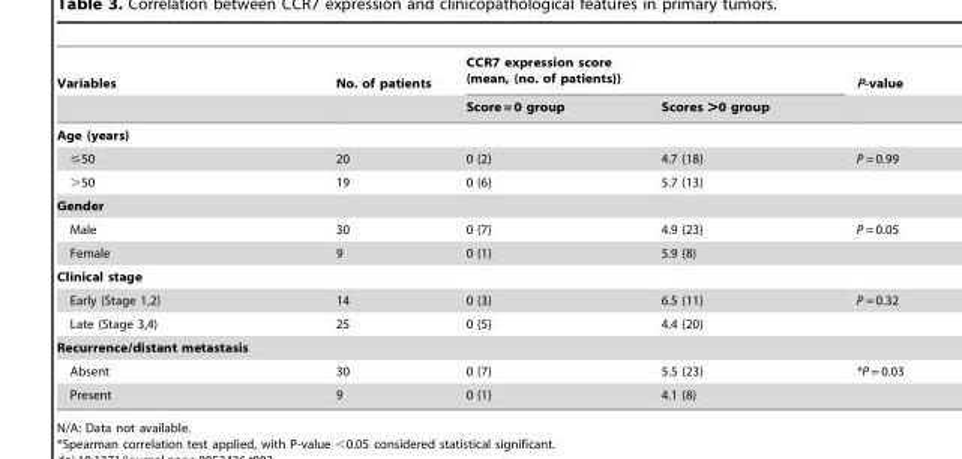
<table><thead><tr><td rowspan="2">Variables</td><td rowspan="2">No. of patients</td><td colspan="2">CCR7 expression score (mean, {no. of patients})</td><td rowspan="2">P-value</td></tr><tr><td>Score = 0 group</td><td>Scores &gt;0 group</td></tr></thead><tbody><tr><td colspan="5">Age (years)</td></tr><tr><td>≤50</td><td>20</td><td>0 {2}</td><td>4.7 {18}</td><td>P = 0.99</td></tr><tr><td>&gt;50</td><td>19</td><td>0 {6}</td><td>5.7 {13}</td><td></td></tr><tr><td colspan="5">Gender</td></tr><tr><td>Male</td><td>30</td><td>0 {7}</td><td>4.9 {23}</td><td>P = 0.05</td></tr><tr><td>Female</td><td>9</td><td>0 {1}</td><td>5.9 {8}</td><td></td></tr><tr><td colspan="5">Clinical stage</td></tr><tr><td>Early (Stage 1,2)</td><td>14</td><td>0 {3}</td><td>6.5 {11}</td><td>P = 0.32</td></tr><tr><td>Late (Stage 3,4)</td><td>25</td><td>0 {5}</td><td>4.4 {20}</td><td></td></tr><tr><td colspan="5">Recurrence/distant metastasis</td></tr><tr><td>Absent</td><td>30</td><td>0 {7}</td><td>5.5 {23}</td><td>*P = 0.03</td></tr><tr><td>Present</td><td>9</td><td>0 {1}</td><td>4.1 {8}</td><td></td></tr></tbody></table>